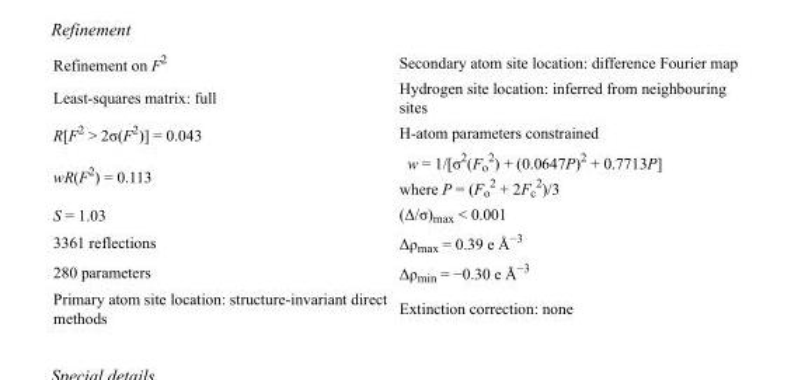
<table><tbody><tr><td>Refinement on F<sup>2</sup></td><td>Secondary atom site location: difference Fourier map</td></tr><tr><td>Least-squares matrix: full</td><td>Hydrogen site location: inferred from neighbouring sites</td></tr><tr><td>R[F<sup>2</sup> &gt; 2σ(F<sup>2</sup>)] = 0.043</td><td>H-atom parameters constrained</td></tr><tr><td>wR(F<sup>2</sup>) = 0.113</td><td>w = 1/[σ<sup>2</sup>(F<sub>o</sub> <sup>2</sup>) + (0.0647P)<sup>2</sup> + 0.7713P] where P = (F<sub>o</sub> <sup>2</sup> + 2F<sub>c</sub> <sup>2</sup>)/3</td></tr><tr><td>S = 1.03</td><td>(Δ/σ)<sub>max</sub> &lt; 0.001</td></tr><tr><td>3361 reflections</td><td>Δρ<sub>max</sub> = 0.39 e Å<sup>−3</sup></td></tr><tr><td>280 parameters</td><td>Δρ<sub>min</sub> = −0.30 e Å<sup>−3</sup></td></tr><tr><td>Primary atom site location: structure-invariant direct methods</td><td>Extinction correction: none</td></tr></tbody></table>